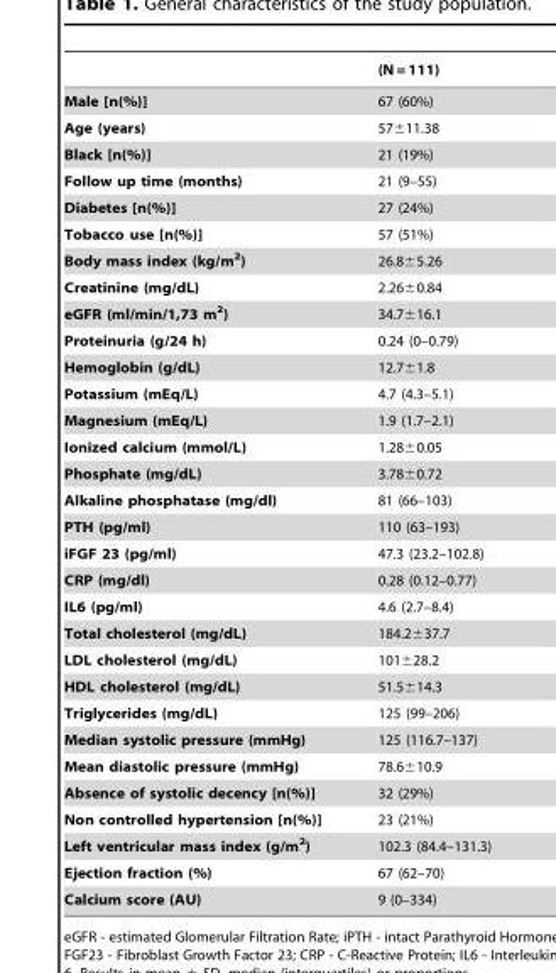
<table><thead><tr><td></td><td>(N = 111)</td></tr></thead><tbody><tr><td>Male [n(%)]</td><td>67 (60%)</td></tr><tr><td>Age (years)</td><td>57±11.38</td></tr><tr><td>Black [n(%)]</td><td>21 (19%)</td></tr><tr><td>Follow up time (months)</td><td>21 (9–55)</td></tr><tr><td>Diabetes [n(%)]</td><td>27 (24%)</td></tr><tr><td>Tobacco use [n(%)]</td><td>57 (51%)</td></tr><tr><td>Body mass index (kg/m<sup>2</sup>)</td><td>26.8±5.26</td></tr><tr><td>Creatinine (mg/dL)</td><td>2.26±0.84</td></tr><tr><td>eGFR (ml/min/1,73 m<sup>2</sup>)</td><td>34.7±16.1</td></tr><tr><td>Proteinuria (g/24 h)</td><td>0.24 (0–0.79)</td></tr><tr><td>Hemoglobin (g/dL)</td><td>12.7±1.8</td></tr><tr><td>Potassium (mEq/L)</td><td>4.7 (4.3–5.1)</td></tr><tr><td>Magnesium (mEq/L)</td><td>1.9 (1.7–2.1)</td></tr><tr><td>Ionized calcium (mmol/L)</td><td>1.28±0.05</td></tr><tr><td>Phosphate (mg/dL)</td><td>3.78±0.72</td></tr><tr><td>Alkaline phosphatase (mg/dl)</td><td>81 (66–103)</td></tr><tr><td>PTH (pg/ml)</td><td>110 (63–193)</td></tr><tr><td>iFGF 23 (pg/ml)</td><td>47.3 (23.2–102.8)</td></tr><tr><td>CRP (mg/dl)</td><td>0.28 (0.12–0.77)</td></tr><tr><td>IL6 (pg/ml)</td><td>4.6 (2.7–8.4)</td></tr><tr><td>Total cholesterol (mg/dL)</td><td>184.2±37.7</td></tr><tr><td>LDL cholesterol (mg/dL)</td><td>101±28.2</td></tr><tr><td>HDL cholesterol (mg/dL)</td><td>51.5±14.3</td></tr><tr><td>Triglycerides (mg/dL)</td><td>125 (99–206)</td></tr><tr><td>Median systolic pressure (mmHg)</td><td>125 (116.7–137)</td></tr><tr><td>Mean diastolic pressure (mmHg)</td><td>78.6±10.9</td></tr><tr><td>Absence of systolic decency [n(%)]</td><td>32 (29%)</td></tr><tr><td>Non controlled hypertension [n(%)]</td><td>23 (21%)</td></tr><tr><td>Left ventricular mass index (g/m<sup>2</sup>)</td><td>102.3 (84.4–131.3)</td></tr><tr><td>Ejection fraction (%)</td><td>67 (62–70)</td></tr><tr><td>Calcium score (AU)</td><td>9 (0–334)</td></tr></tbody></table>